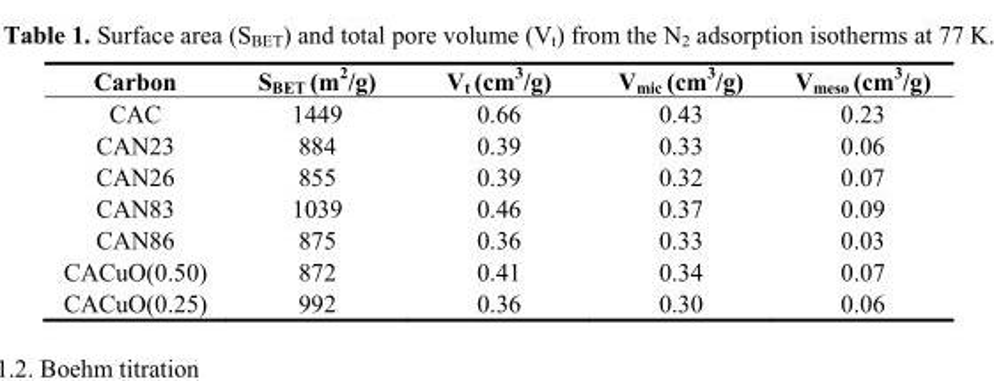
<table><thead><tr><td>Carbon</td><td>S<sub>BET</sub> (m<sup>2</sup>/g)</td><td>V<sub>t</sub> (cm<sup>3</sup>/g)</td><td>V<sub>mic</sub> (cm<sup>3</sup>/g)</td><td>V<sub>meso</sub> (cm<sup>3</sup>/g)</td></tr></thead><tbody><tr><td>CAC</td><td>1449</td><td>0.66</td><td>0.43</td><td>0.23</td></tr><tr><td>CAN23</td><td>884</td><td>0.39</td><td>0.33</td><td>0.06</td></tr><tr><td>CAN26</td><td>855</td><td>0.39</td><td>0.32</td><td>0.07</td></tr><tr><td>CAN83</td><td>1039</td><td>0.46</td><td>0.37</td><td>0.09</td></tr><tr><td>CAN86</td><td>875</td><td>0.36</td><td>0.33</td><td>0.03</td></tr><tr><td>CACuO(0.50)</td><td>872</td><td>0.41</td><td>0.34</td><td>0.07</td></tr><tr><td>CACuO(0.25)</td><td>992</td><td>0.36</td><td>0.30</td><td>0.06</td></tr></tbody></table>